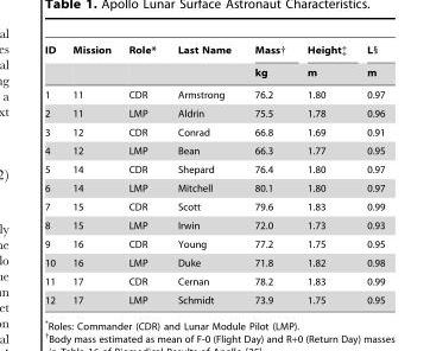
<table><thead><tr><td rowspan="2">ID</td><td rowspan="2">Mission</td><td rowspan="2">Role*</td><td rowspan="2">Last Name</td><td rowspan="2">Mass† kg</td><td rowspan="2">Height‡ m</td><td rowspan="2">L§ m</td></tr><tr></tr></thead><tbody><tr><td>1</td><td>11</td><td>CDR</td><td>Armstrong</td><td>76.2</td><td>1.80</td><td>0.97</td></tr><tr><td>2</td><td>11</td><td>LMP</td><td>Aldrin</td><td>75.5</td><td>1.78</td><td>0.96</td></tr><tr><td>3</td><td>12</td><td>CDR</td><td>Conrad</td><td>66.8</td><td>1.69</td><td>0.91</td></tr><tr><td>4</td><td>12</td><td>LMP</td><td>Bean</td><td>66.3</td><td>1.77</td><td>0.95</td></tr><tr><td>5</td><td>14</td><td>CDR</td><td>Shepard</td><td>76.4</td><td>1.80</td><td>0.97</td></tr><tr><td>6</td><td>14</td><td>LMP</td><td>Mitchell</td><td>80.1</td><td>1.80</td><td>0.97</td></tr><tr><td>7</td><td>15</td><td>CDR</td><td>Scott</td><td>79.6</td><td>1.83</td><td>0.99</td></tr><tr><td>8</td><td>15</td><td>LMP</td><td>Irwin</td><td>72.0</td><td>1.73</td><td>0.93</td></tr><tr><td>9</td><td>16</td><td>CDR</td><td>Young</td><td>77.2</td><td>1.75</td><td>0.95</td></tr><tr><td>10</td><td>16</td><td>LMP</td><td>Duke</td><td>71.8</td><td>1.82</td><td>0.98</td></tr><tr><td>11</td><td>17</td><td>CDR</td><td>Cernan</td><td>78.2</td><td>1.83</td><td>0.99</td></tr><tr><td>12</td><td>17</td><td>LMP</td><td>Schmidt</td><td>73.9</td><td>1.75</td><td>0.95</td></tr></tbody></table>